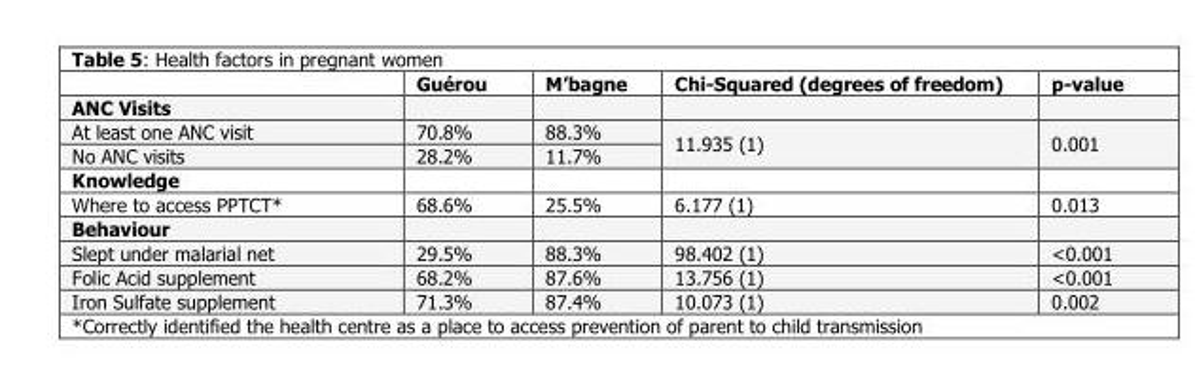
<table><thead><tr><td></td><td>Guérou</td><td>M’bagne</td><td>Chi-Squared (degrees of freedom)</td><td>p-value</td></tr></thead><tbody><tr><td colspan="5">ANC Visits</td></tr><tr><td>At least one ANC visit</td><td>70.8%</td><td>88.3%</td><td rowspan="2">11.935 (1)</td><td rowspan="2">0.001</td></tr><tr><td>No ANC visits</td><td>28.2%</td><td>11.7%</td></tr><tr><td colspan="5">Knowledge</td></tr><tr><td>Where to access PPTCT*</td><td>68.6%</td><td>25.5%</td><td>6.177 (1)</td><td>0.013</td></tr><tr><td colspan="5">Behaviour</td></tr><tr><td>Slept under malarial net</td><td>29.5%</td><td>88.3%</td><td>98.402 (1)</td><td>&lt;0.001</td></tr><tr><td>Folic Acid supplement</td><td>68.2%</td><td>87.6%</td><td>13.756 (1)</td><td>&lt;0.001</td></tr><tr><td>Iron Sulfate supplement</td><td>71.3%</td><td>87.4%</td><td>10.073 (1)</td><td>0.002</td></tr></tbody></table>